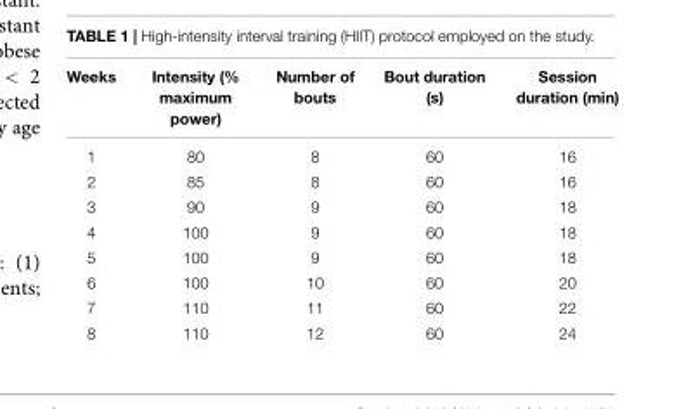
<table><thead><tr><td>Weeks</td><td>Intensity (% maximum power)</td><td>Number of bouts</td><td>Bout duration (s)</td><td>Session duration (min)</td></tr></thead><tbody><tr><td>1</td><td>80</td><td>8</td><td>60</td><td>16</td></tr><tr><td>2</td><td>85</td><td>8</td><td>60</td><td>16</td></tr><tr><td>3</td><td>90</td><td>9</td><td>60</td><td>18</td></tr><tr><td>4</td><td>100</td><td>9</td><td>60</td><td>18</td></tr><tr><td>5</td><td>100</td><td>9</td><td>60</td><td>18</td></tr><tr><td>6</td><td>100</td><td>10</td><td>60</td><td>20</td></tr><tr><td>7</td><td>110</td><td>11</td><td>60</td><td>22</td></tr><tr><td>8</td><td>110</td><td>12</td><td>60</td><td>24</td></tr></tbody></table>